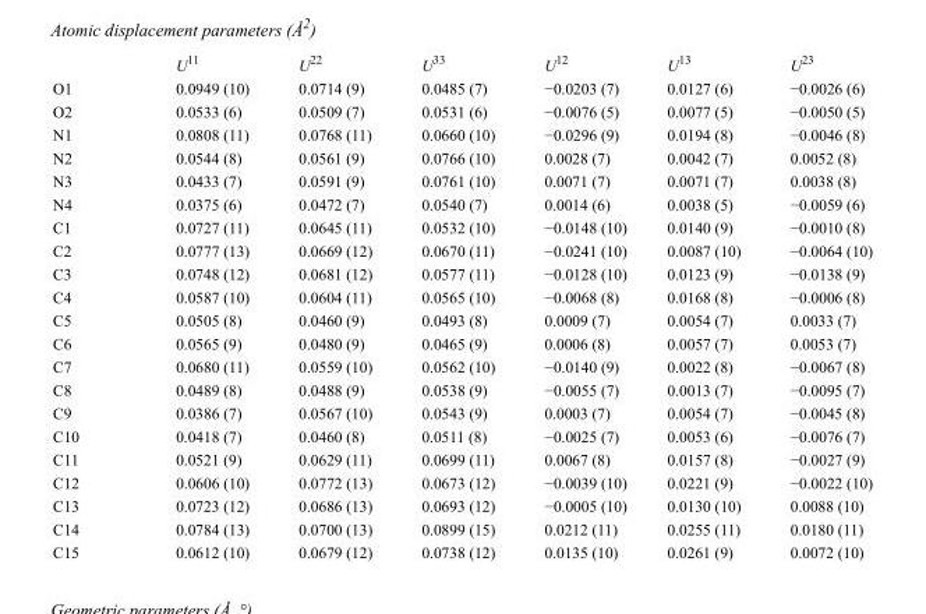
<table><thead><tr><td></td><td>U<sup>11</sup></td><td>U<sup>22</sup></td><td>U<sup>33</sup></td><td>U<sup>12</sup></td><td>U<sup>13</sup></td><td>U<sup>23</sup></td></tr></thead><tbody><tr><td>O1</td><td>0.0949 (10)</td><td>0.0714 (9)</td><td>0.0485 (7)</td><td>−0.0203 (7)</td><td>0.0127 (6)</td><td>−0.0026 (6)</td></tr><tr><td>O2</td><td>0.0533 (6)</td><td>0.0509 (7)</td><td>0.0531 (6)</td><td>−0.0076 (5)</td><td>0.0077 (5)</td><td>−0.0050 (5)</td></tr><tr><td>N1</td><td>0.0808 (11)</td><td>0.0768 (11)</td><td>0.0660 (10)</td><td>−0.0296 (9)</td><td>0.0194 (8)</td><td>−0.0046 (8)</td></tr><tr><td>N2</td><td>0.0544 (8)</td><td>0.0561 (9)</td><td>0.0766 (10)</td><td>0.0028 (7)</td><td>0.0042 (7)</td><td>0.0052 (8)</td></tr><tr><td>N3</td><td>0.0433 (7)</td><td>0.0591 (9)</td><td>0.0761 (10)</td><td>0.0071 (7)</td><td>0.0071 (7)</td><td>0.0038 (8)</td></tr><tr><td>N4</td><td>0.0375 (6)</td><td>0.0472 (7)</td><td>0.0540 (7)</td><td>0.0014 (6)</td><td>0.0038 (5)</td><td>−0.0059 (6)</td></tr><tr><td>C1</td><td>0.0727 (11)</td><td>0.0645 (11)</td><td>0.0532 (10)</td><td>−0.0148 (10)</td><td>0.0140 (9)</td><td>−0.0010 (8)</td></tr><tr><td>C2</td><td>0.0777 (13)</td><td>0.0669 (12)</td><td>0.0670 (11)</td><td>−0.0241 (10)</td><td>0.0087 (10)</td><td>−0.0064 (10)</td></tr><tr><td>C3</td><td>0.0748 (12)</td><td>0.0681 (12)</td><td>0.0577 (11)</td><td>−0.0128 (10)</td><td>0.0123 (9)</td><td>−0.0138 (9)</td></tr><tr><td>C4</td><td>0.0587 (10)</td><td>0.0604 (11)</td><td>0.0565 (10)</td><td>−0.0068 (8)</td><td>0.0168 (8)</td><td>−0.0006 (8)</td></tr><tr><td>C5</td><td>0.0505 (8)</td><td>0.0460 (9)</td><td>0.0493 (8)</td><td>0.0009 (7)</td><td>0.0054 (7)</td><td>0.0033 (7)</td></tr><tr><td>C6</td><td>0.0565 (9)</td><td>0.0480 (9)</td><td>0.0465 (9)</td><td>0.0006 (8)</td><td>0.0057 (7)</td><td>0.0053 (7)</td></tr><tr><td>C7</td><td>0.0680 (11)</td><td>0.0559 (10)</td><td>0.0562 (10)</td><td>−0.0140 (9)</td><td>0.0022 (8)</td><td>−0.0067 (8)</td></tr><tr><td>C8</td><td>0.0489 (8)</td><td>0.0488 (9)</td><td>0.0538 (9)</td><td>−0.0055 (7)</td><td>0.0013 (7)</td><td>−0.0095 (7)</td></tr><tr><td>C9</td><td>0.0386 (7)</td><td>0.0567 (10)</td><td>0.0543 (9)</td><td>0.0003 (7)</td><td>0.0054 (7)</td><td>−0.0045 (8)</td></tr><tr><td>C10</td><td>0.0418 (7)</td><td>0.0460 (8)</td><td>0.0511 (8)</td><td>−0.0025 (7)</td><td>0.0053 (6)</td><td>−0.0076 (7)</td></tr><tr><td>C11</td><td>0.0521 (9)</td><td>0.0629 (11)</td><td>0.0699 (11)</td><td>0.0067 (8)</td><td>0.0157 (8)</td><td>−0.0027 (9)</td></tr><tr><td>C12</td><td>0.0606 (10)</td><td>0.0772 (13)</td><td>0.0673 (12)</td><td>−0.0039 (10)</td><td>0.0221 (9)</td><td>−0.0022 (10)</td></tr><tr><td>C13</td><td>0.0723 (12)</td><td>0.0686 (13)</td><td>0.0693 (12)</td><td>−0.0005 (10)</td><td>0.0130 (10)</td><td>0.0088 (10)</td></tr><tr><td>C14</td><td>0.0784 (13)</td><td>0.0700 (13)</td><td>0.0899 (15)</td><td>0.0212 (11)</td><td>0.0255 (11)</td><td>0.0180 (11)</td></tr><tr><td>C15</td><td>0.0612 (10)</td><td>0.0679 (12)</td><td>0.0738 (12)</td><td>0.0135 (10)</td><td>0.0261 (9)</td><td>0.0072 (10)</td></tr></tbody></table>